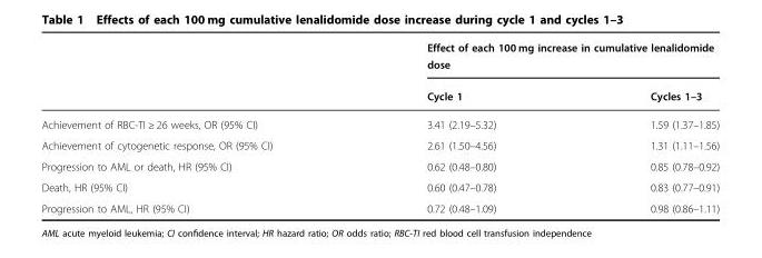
<table><thead><tr><td rowspan="2"></td><td colspan="2">Effect of each 100 mg increase in cumulative lenalidomide dose</td></tr><tr><td>Cycle 1</td><td>Cycles 1–3</td></tr></thead><tbody><tr><td>Achievement of RBC-TI ≥ 26 weeks, OR (95% CI)</td><td>3.41 (2.19–5.32)</td><td>1.59 (1.37–1.85)</td></tr><tr><td>Achievement of cytogenetic response, OR (95% CI)</td><td>2.61 (1.50–4.56)</td><td>1.31 (1.11–1.56)</td></tr><tr><td>Progression to AML or death, HR (95% CI)</td><td>0.62 (0.48–0.80)</td><td>0.85 (0.78–0.92)</td></tr><tr><td>Death, HR (95% CI)</td><td>0.60 (0.47–0.78)</td><td>0.83 (0.77–0.91)</td></tr><tr><td>Progression to AML, HR (95% CI)</td><td>0.72 (0.48–1.09)</td><td>0.98 (0.86–1.11)</td></tr></tbody></table>